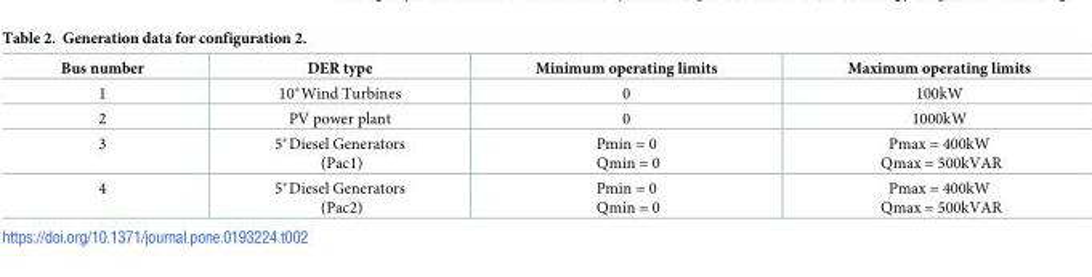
<table><thead><tr><td>Bus number</td><td>DER type</td><td>Minimum operating limits</td><td>Maximum operating limits</td></tr></thead><tbody><tr><td>1</td><td>10*Wind Turbines</td><td>0</td><td>100kW</td></tr><tr><td>2</td><td>PV power plant</td><td>0</td><td>1000kW</td></tr><tr><td>3</td><td>5*Diesel Generators (Pac1)</td><td>Pmin = 0 Qmin = 0</td><td>Pmax = 400kW Qmax = 500kVAR</td></tr><tr><td>4</td><td>5*Diesel Generators (Pac2)</td><td>Pmin = 0 Qmin = 0</td><td>Pmax = 400kW Qmax = 500kVAR</td></tr></tbody></table>